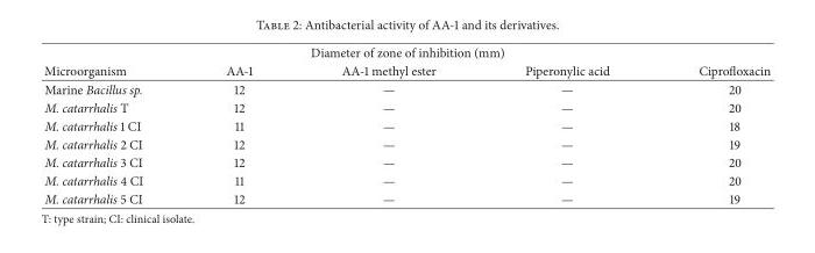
<table><thead><tr><td colspan="5">Diameter of zone of inhibition (mm)</td></tr><tr><td>Microorganism</td><td>AA-1</td><td>AA-1 methyl ester</td><td>Piperonylic acid</td><td>Ciprofloxacin</td></tr></thead><tbody><tr><td>Marine Bacillus sp.</td><td>12</td><td>—</td><td>—</td><td>20</td></tr><tr><td>M. catarrhalis T</td><td>12</td><td>—</td><td>—</td><td>20</td></tr><tr><td>M. catarrhalis 1 CI</td><td>11</td><td>—</td><td>—</td><td>18</td></tr><tr><td>M. catarrhalis 2 CI</td><td>12</td><td>—</td><td>—</td><td>19</td></tr><tr><td>M. catarrhalis 3 CI</td><td>12</td><td>—</td><td>—</td><td>20</td></tr><tr><td>M. catarrhalis 4 CI</td><td>11</td><td>—</td><td>—</td><td>20</td></tr><tr><td>M. catarrhalis 5 CI</td><td>12</td><td>—</td><td>—</td><td>19</td></tr></tbody></table>